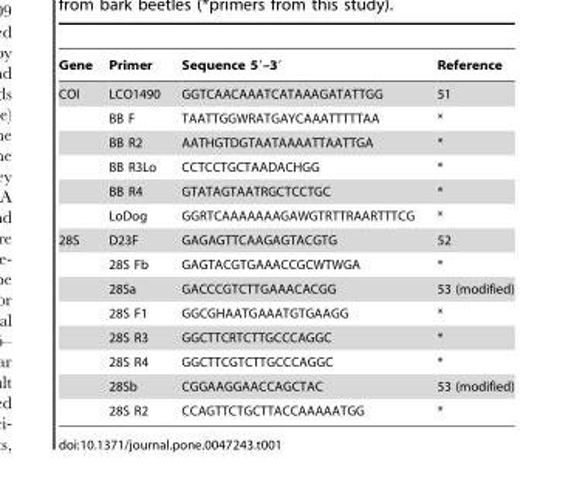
<table><thead><tr><td>Gene</td><td>Primer</td><td>Sequence 5′–3′</td><td>Reference</td></tr></thead><tbody><tr><td rowspan="6">COI</td><td>LCO1490</td><td>GGTCAACAAATCATAAAGATATTGG</td><td>51</td></tr><tr><td>BB F</td><td>TAATTGGWRATGAYCAAATTTTTAA</td><td>*</td></tr><tr><td>BB R2</td><td>AATHGTDGTAATAAAATTAATTGA</td><td>*</td></tr><tr><td>BB R3Lo</td><td>CCTCCTGCTAADACHGG</td><td>*</td></tr><tr><td>BB R4</td><td>GTATAGTAATRGCTCCTGC</td><td>*</td></tr><tr><td>LoDog</td><td>GGRTCAAAAAAAGAWGTRTTRAARTTTCG</td><td>*</td></tr><tr><td rowspan="8">28S</td><td>D23F</td><td>GAGAGTTCAAGAGTACGTG</td><td>52</td></tr><tr><td>28S Fb</td><td>GAGTACGTGAAACCGCWTWGA</td><td>*</td></tr><tr><td>28Sa</td><td>GACCCGTCTTGAAACACGG</td><td>53 (modified)</td></tr><tr><td>28S F1</td><td>GGCGHAATGAAATGTGAAGG</td><td>*</td></tr><tr><td>28S R3</td><td>GGCTTCRTCTTGCCCAGGC</td><td>*</td></tr><tr><td>28S R4</td><td>GGCTTCGTCTTGCCCAGGC</td><td>*</td></tr><tr><td>28Sb</td><td>CGGAAGGAACCAGCTAC</td><td>53 (modified)</td></tr><tr><td>28S R2</td><td>CCAGTTCTGCTTACCAAAAATGG</td><td>*</td></tr></tbody></table>